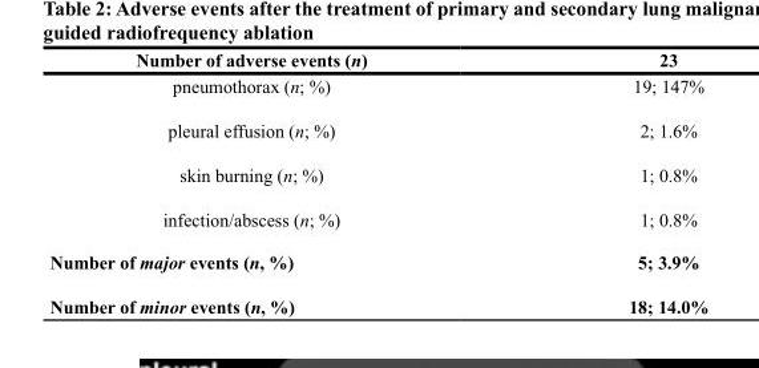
<table><thead><tr><td>Number of adverse events (n)</td><td>23</td></tr></thead><tbody><tr><td>pneumothorax (n; %)</td><td>19; 147%</td></tr><tr><td>pleural effusion (n; %)</td><td>2; 1.6%</td></tr><tr><td>skin burning (n; %)</td><td>1; 0.8%</td></tr><tr><td>infection/abscess (n; %)</td><td>1; 0.8%</td></tr><tr><td>Number of major events (n, %)</td><td>5; 3.9%</td></tr><tr><td>Number of minor events (n, %)</td><td>18; 14.0%</td></tr></tbody></table>